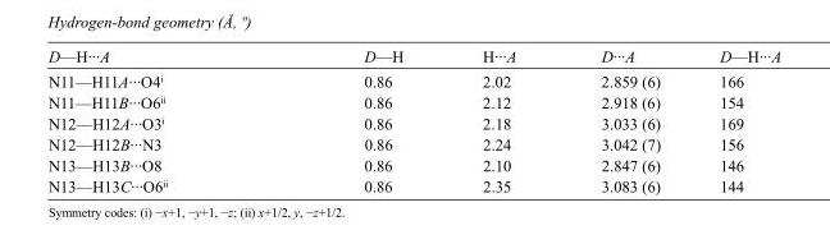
<table><tbody><tr><td>D—H···A</td><td>D—H</td><td>H···A</td><td>D···A</td><td>D—H···A</td></tr><tr><td>N11—H11A···O4<sup>i</sup></td><td>0.86</td><td>2.02</td><td>2.859 (6)</td><td>166</td></tr><tr><td>N11—H11B···O6<sup>ii</sup></td><td>0.86</td><td>2.12</td><td>2.918 (6)</td><td>154</td></tr><tr><td>N12—H12A···O3<sup>i</sup></td><td>0.86</td><td>2.18</td><td>3.033 (6)</td><td>169</td></tr><tr><td>N12—H12B···N3</td><td>0.86</td><td>2.24</td><td>3.042 (7)</td><td>156</td></tr><tr><td>N13—H13B···O8</td><td>0.86</td><td>2.10</td><td>2.847 (6)</td><td>146</td></tr><tr><td>N13—H13C···O6<sup>ii</sup></td><td>0.86</td><td>2.35</td><td>3.083 (6)</td><td>144</td></tr></tbody></table>